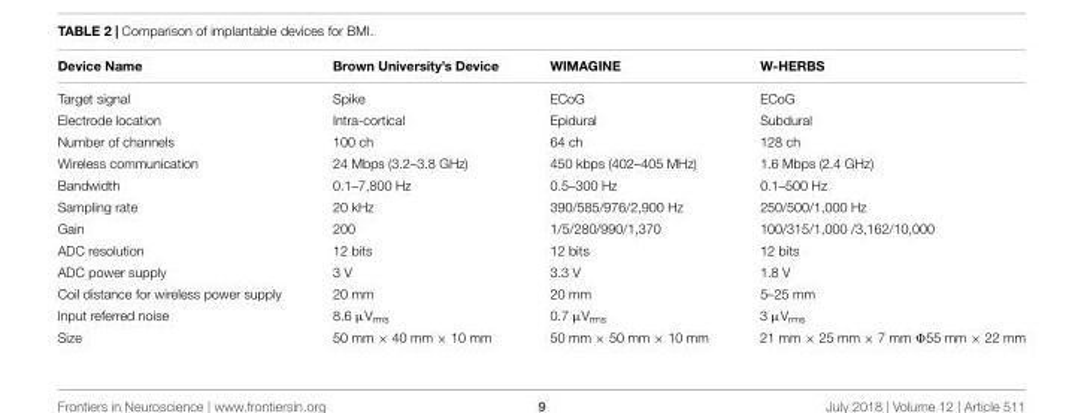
<table><thead><tr><td>Device Name</td><td>Brown University’s Device</td><td>WIMAGINE</td><td>W-HERBS</td></tr></thead><tbody><tr><td>Target signal</td><td>Spike</td><td>ECoG</td><td>ECoG</td></tr><tr><td>Electrode location</td><td>Intra-cortical</td><td>Epidural</td><td>Subdural</td></tr><tr><td>Number of channels</td><td>100 ch</td><td>64 ch</td><td>128 ch</td></tr><tr><td>Wireless communication</td><td>24 Mbps (3.2–3.8 GHz)</td><td>450 kbps (402–405 MHz)</td><td>1.6 Mbps (2.4 GHz)</td></tr><tr><td>Bandwidth</td><td>0.1–7,800 Hz</td><td>0.5–300 Hz</td><td>0.1–500 Hz</td></tr><tr><td>Sampling rate</td><td>20 kHz</td><td>390/585/976/2,900 Hz</td><td>250/500/1,000 Hz</td></tr><tr><td>Gain</td><td>200</td><td>1/5/280/990/1,370</td><td>100/315/1,000 /3,162/10,000</td></tr><tr><td>ADC resolution</td><td>12 bits</td><td>12 bits</td><td>12 bits</td></tr><tr><td>ADC power supply</td><td>3 V</td><td>3.3 V</td><td>1.8 V</td></tr><tr><td>Coil distance for wireless power supply</td><td>20 mm</td><td>20 mm</td><td>5–25 mm</td></tr><tr><td>Input referred noise</td><td>8.6 µV<sub>rms</sub></td><td>0.7 µV<sub>rms</sub></td><td>3 µV<sub>rms</sub></td></tr><tr><td>Size</td><td>50 mm × 40 mm × 10 mm</td><td>50 mm × 50 mm × 10 mm</td><td>21 mm × 25 mm × 7 mm Φ55 mm × 22 mm</td></tr></tbody></table>